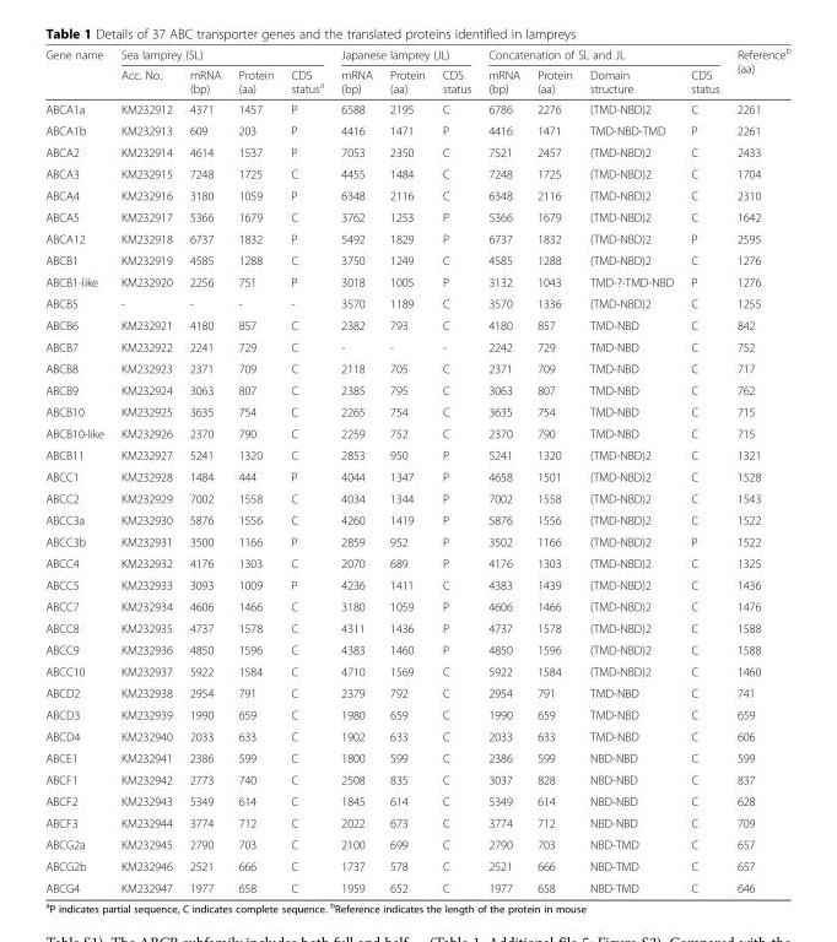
<table><thead><tr><td rowspan="2">Gene name</td><td colspan="4">Sea lamprey (SL)</td><td colspan="3">Japanese lamprey (JL)</td><td colspan="4">Concatenation of SL and JL</td><td rowspan="2">Reference<sup>b</sup> (aa)</td></tr><tr><td>Acc. No.</td><td>mRNA (bp)</td><td>Protein (aa)</td><td>CDS status<sup>a</sup></td><td>mRNA (bp)</td><td>Protein (aa)</td><td>CDS status</td><td>mRNA (bp)</td><td>Protein (aa)</td><td>Domain structure</td><td>CDS status</td></tr></thead><tbody><tr><td>ABCA1a</td><td>KM232912</td><td>4371</td><td>1457</td><td>P</td><td>6588</td><td>2195</td><td>C</td><td>6786</td><td>2276</td><td>(TMD-NBD)2</td><td>C</td><td>2261</td></tr><tr><td>ABCA1b</td><td>KM232913</td><td>609</td><td>203</td><td>P</td><td>4416</td><td>1471</td><td>P</td><td>4416</td><td>1471</td><td>TMD-NBD-TMD</td><td>P</td><td>2261</td></tr><tr><td>ABCA2</td><td>KM232914</td><td>4614</td><td>1537</td><td>P</td><td>7053</td><td>2350</td><td>C</td><td>7521</td><td>2457</td><td>(TMD-NBD)2</td><td>C</td><td>2433</td></tr><tr><td>ABCA3</td><td>KM232915</td><td>7248</td><td>1725</td><td>C</td><td>4455</td><td>1484</td><td>C</td><td>7248</td><td>1725</td><td>(TMD-NBD)2</td><td>C</td><td>1704</td></tr><tr><td>ABCA4</td><td>KM232916</td><td>3180</td><td>1059</td><td>P</td><td>6348</td><td>2116</td><td>C</td><td>6348</td><td>2116</td><td>(TMD-NBD)2</td><td>C</td><td>2310</td></tr><tr><td>ABCA5</td><td>KM232917</td><td>5366</td><td>1679</td><td>C</td><td>3762</td><td>1253</td><td>P</td><td>5366</td><td>1679</td><td>(TMD-NBD)2</td><td>C</td><td>1642</td></tr><tr><td>ABCA12</td><td>KM232918</td><td>6737</td><td>1832</td><td>P</td><td>5492</td><td>1829</td><td>P</td><td>6737</td><td>1832</td><td>(TMD-NBD)2</td><td>P</td><td>2595</td></tr><tr><td>ABCB1</td><td>KM232919</td><td>4585</td><td>1288</td><td>C</td><td>3750</td><td>1249</td><td>C</td><td>4585</td><td>1288</td><td>(TMD-NBD)2</td><td>C</td><td>1276</td></tr><tr><td>ABCB1-like</td><td>KM232920</td><td>2256</td><td>751</td><td>P</td><td>3018</td><td>1005</td><td>P</td><td>3132</td><td>1043</td><td>TMD-?-TMD-NBD</td><td>P</td><td>1276</td></tr><tr><td>ABCB5</td><td>-</td><td>-</td><td>-</td><td>-</td><td>3570</td><td>1189</td><td>C</td><td>3570</td><td>1336</td><td>(TMD-NBD)2</td><td>C</td><td>1255</td></tr><tr><td>ABCB6</td><td>KM232921</td><td>4180</td><td>857</td><td>C</td><td>2382</td><td>793</td><td>C</td><td>4180</td><td>857</td><td>TMD-NBD</td><td>C</td><td>842</td></tr><tr><td>ABCB7</td><td>KM232922</td><td>2241</td><td>729</td><td>C</td><td>-</td><td>-</td><td>-</td><td>2242</td><td>729</td><td>TMD-NBD</td><td>C</td><td>752</td></tr><tr><td>ABCB8</td><td>KM232923</td><td>2371</td><td>709</td><td>C</td><td>2118</td><td>705</td><td>C</td><td>2371</td><td>709</td><td>TMD-NBD</td><td>C</td><td>717</td></tr><tr><td>ABCB9</td><td>KM232924</td><td>3063</td><td>807</td><td>C</td><td>2385</td><td>795</td><td>C</td><td>3063</td><td>807</td><td>TMD-NBD</td><td>C</td><td>762</td></tr><tr><td>ABCB10</td><td>KM232925</td><td>3635</td><td>754</td><td>C</td><td>2265</td><td>754</td><td>C</td><td>3635</td><td>754</td><td>TMD-NBD</td><td>C</td><td>715</td></tr><tr><td>ABCB10-like</td><td>KM232926</td><td>2370</td><td>790</td><td>C</td><td>2259</td><td>752</td><td>C</td><td>2370</td><td>790</td><td>TMD-NBD</td><td>C</td><td>715</td></tr><tr><td>ABCB11</td><td>KM232927</td><td>5241</td><td>1320</td><td>C</td><td>2853</td><td>950</td><td>P</td><td>5241</td><td>1320</td><td>(TMD-NBD)2</td><td>C</td><td>1321</td></tr><tr><td>ABCC1</td><td>KM232928</td><td>1484</td><td>444</td><td>P</td><td>4044</td><td>1347</td><td>P</td><td>4658</td><td>1501</td><td>(TMD-NBD)2</td><td>C</td><td>1528</td></tr><tr><td>ABCC2</td><td>KM232929</td><td>7002</td><td>1558</td><td>C</td><td>4034</td><td>1344</td><td>P</td><td>7002</td><td>1558</td><td>(TMD-NBD)2</td><td>C</td><td>1543</td></tr><tr><td>ABCC3a</td><td>KM232930</td><td>5876</td><td>1556</td><td>C</td><td>4260</td><td>1419</td><td>P</td><td>5876</td><td>1556</td><td>(TMD-NBD)2</td><td>C</td><td>1522</td></tr><tr><td>ABCC3b</td><td>KM232931</td><td>3500</td><td>1166</td><td>P</td><td>2859</td><td>952</td><td>P</td><td>3502</td><td>1166</td><td>(TMD-NBD)2</td><td>P</td><td>1522</td></tr><tr><td>ABCC4</td><td>KM232932</td><td>4176</td><td>1303</td><td>C</td><td>2070</td><td>689</td><td>P</td><td>4176</td><td>1303</td><td>(TMD-NBD)2</td><td>C</td><td>1325</td></tr><tr><td>ABCC5</td><td>KM232933</td><td>3093</td><td>1009</td><td>P</td><td>4236</td><td>1411</td><td>C</td><td>4383</td><td>1439</td><td>(TMD-NBD)2</td><td>C</td><td>1436</td></tr><tr><td>ABCC7</td><td>KM232934</td><td>4606</td><td>1466</td><td>C</td><td>3180</td><td>1059</td><td>P</td><td>4606</td><td>1466</td><td>(TMD-NBD)2</td><td>C</td><td>1476</td></tr><tr><td>ABCC8</td><td>KM232935</td><td>4737</td><td>1578</td><td>C</td><td>4311</td><td>1436</td><td>P</td><td>4737</td><td>1578</td><td>(TMD-NBD)2</td><td>C</td><td>1588</td></tr><tr><td>ABCC9</td><td>KM232936</td><td>4850</td><td>1596</td><td>C</td><td>4383</td><td>1460</td><td>P</td><td>4850</td><td>1596</td><td>(TMD-NBD)2</td><td>C</td><td>1588</td></tr><tr><td>ABCC10</td><td>KM232937</td><td>5922</td><td>1584</td><td>C</td><td>4710</td><td>1569</td><td>C</td><td>5922</td><td>1584</td><td>(TMD-NBD)2</td><td>C</td><td>1460</td></tr><tr><td>ABCD2</td><td>KM232938</td><td>2954</td><td>791</td><td>C</td><td>2379</td><td>792</td><td>C</td><td>2954</td><td>791</td><td>TMD-NBD</td><td>C</td><td>741</td></tr><tr><td>ABCD3</td><td>KM232939</td><td>1990</td><td>659</td><td>C</td><td>1980</td><td>659</td><td>C</td><td>1990</td><td>659</td><td>TMD-NBD</td><td>C</td><td>659</td></tr><tr><td>ABCD4</td><td>KM232940</td><td>2033</td><td>633</td><td>C</td><td>1902</td><td>633</td><td>C</td><td>2033</td><td>633</td><td>TMD-NBD</td><td>C</td><td>606</td></tr><tr><td>ABCE1</td><td>KM232941</td><td>2386</td><td>599</td><td>C</td><td>1800</td><td>599</td><td>C</td><td>2386</td><td>599</td><td>NBD-NBD</td><td>C</td><td>599</td></tr><tr><td>ABCF1</td><td>KM232942</td><td>2773</td><td>740</td><td>C</td><td>2508</td><td>835</td><td>C</td><td>3037</td><td>828</td><td>NBD-NBD</td><td>C</td><td>837</td></tr><tr><td>ABCF2</td><td>KM232943</td><td>5349</td><td>614</td><td>C</td><td>1845</td><td>614</td><td>C</td><td>5349</td><td>614</td><td>NBD-NBD</td><td>C</td><td>628</td></tr><tr><td>ABCF3</td><td>KM232944</td><td>3774</td><td>712</td><td>C</td><td>2022</td><td>673</td><td>C</td><td>3774</td><td>712</td><td>NBD-NBD</td><td>C</td><td>709</td></tr><tr><td>ABCG2a</td><td>KM232945</td><td>2790</td><td>703</td><td>C</td><td>2100</td><td>699</td><td>C</td><td>2790</td><td>703</td><td>NBD-TMD</td><td>C</td><td>657</td></tr><tr><td>ABCG2b</td><td>KM232946</td><td>2521</td><td>666</td><td>C</td><td>1737</td><td>578</td><td>C</td><td>2521</td><td>666</td><td>NBD-TMD</td><td>C</td><td>657</td></tr><tr><td>ABCG4</td><td>KM232947</td><td>1977</td><td>658</td><td>C</td><td>1959</td><td>652</td><td>C</td><td>1977</td><td>658</td><td>NBD-TMD</td><td>C</td><td>646</td></tr></tbody></table>